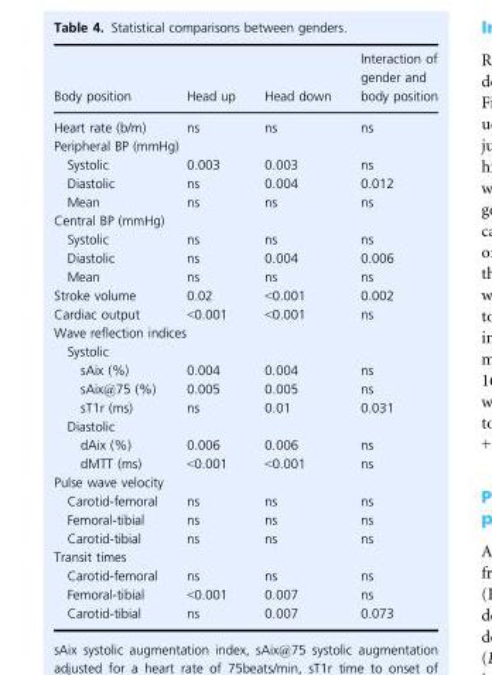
<table><thead><tr><td>Body position</td><td>Head up</td><td>Head down</td><td>Interaction of gender and body position</td></tr></thead><tbody><tr><td>Heart rate (b/m)</td><td>ns</td><td>ns</td><td>ns</td></tr><tr><td colspan="4">Peripheral BP (mmHg)</td></tr><tr><td>Systolic</td><td>0.003</td><td>0.003</td><td>ns</td></tr><tr><td>Diastolic</td><td>ns</td><td>0.004</td><td>0.012</td></tr><tr><td>Mean</td><td>ns</td><td>ns</td><td>ns</td></tr><tr><td colspan="4">Central BP (mmHg)</td></tr><tr><td>Systolic</td><td>ns</td><td>ns</td><td>ns</td></tr><tr><td>Diastolic</td><td>ns</td><td>0.004</td><td>0.006</td></tr><tr><td>Mean</td><td>ns</td><td>ns</td><td>ns</td></tr><tr><td>Stroke volume</td><td>0.02</td><td>&lt;0.001</td><td>0.002</td></tr><tr><td>Cardiac output</td><td>&lt;0.001</td><td>&lt;0.001</td><td>ns</td></tr><tr><td colspan="4">Wave reflection indices</td></tr><tr><td colspan="4">Systolic</td></tr><tr><td>sAix (%)</td><td>0.004</td><td>0.004</td><td>ns</td></tr><tr><td>sAix@75 (%)</td><td>0.005</td><td>0.005</td><td>ns</td></tr><tr><td>sT1r (ms)</td><td>ns</td><td>0.01</td><td>0.031</td></tr><tr><td colspan="4">Diastolic</td></tr><tr><td>dAix (%)</td><td>0.006</td><td>0.006</td><td>ns</td></tr><tr><td>dMTT (ms)</td><td>&lt;0.001</td><td>&lt;0.001</td><td>ns</td></tr><tr><td colspan="4">Pulse wave velocity</td></tr><tr><td>Carotid-femoral</td><td>ns</td><td>ns</td><td>ns</td></tr><tr><td>Femoral-tibial</td><td>ns</td><td>ns</td><td>ns</td></tr><tr><td>Carotid-tibial</td><td>ns</td><td>ns</td><td>ns</td></tr><tr><td colspan="4">Transit times</td></tr><tr><td>Carotid-femoral</td><td>ns</td><td>ns</td><td>ns</td></tr><tr><td>Femoral-tibial</td><td>&lt;0.001</td><td>0.007</td><td>ns</td></tr><tr><td>Carotid-tibial</td><td>ns</td><td>0.007</td><td>0.073</td></tr></tbody></table>